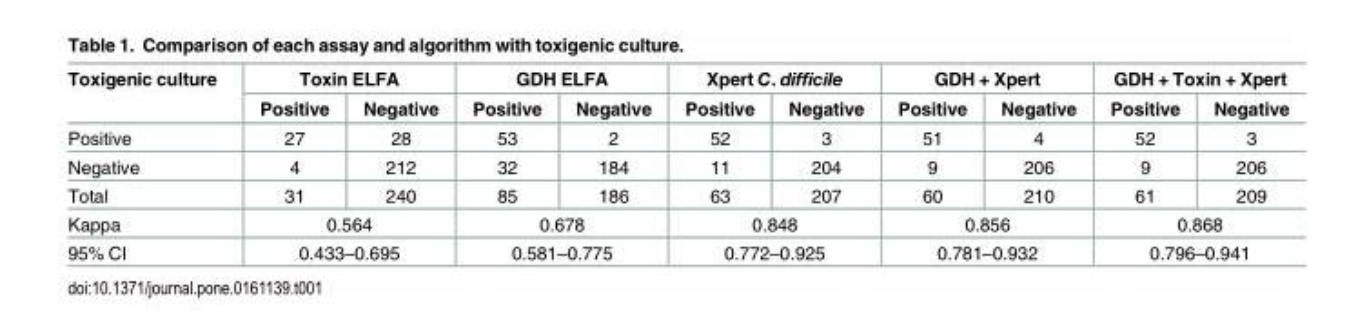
<table><thead><tr><td rowspan="2">Toxigenic culture</td><td colspan="2">Toxin ELFA</td><td colspan="2">GDH ELFA</td><td colspan="2">Xpert C. difficile</td><td colspan="2">GDH + Xpert</td><td colspan="2">GDH + Toxin + Xpert</td></tr><tr><td>Positive</td><td>Negative</td><td>Positive</td><td>Negative</td><td>Positive</td><td>Negative</td><td>Positive</td><td>Negative</td><td>Positive</td><td>Negative</td></tr></thead><tbody><tr><td>Positive</td><td>27</td><td>28</td><td>53</td><td>2</td><td>52</td><td>3</td><td>51</td><td>4</td><td>52</td><td>3</td></tr><tr><td>Negative</td><td>4</td><td>212</td><td>32</td><td>184</td><td>11</td><td>204</td><td>9</td><td>206</td><td>9</td><td>206</td></tr><tr><td>Total</td><td>31</td><td>240</td><td>85</td><td>186</td><td>63</td><td>207</td><td>60</td><td>210</td><td>61</td><td>209</td></tr><tr><td>Kappa</td><td colspan="2">0.564</td><td colspan="2">0.678</td><td colspan="2">0.848</td><td colspan="2">0.856</td><td colspan="2">0.868</td></tr><tr><td>95% CI</td><td colspan="2">0.433–0.695</td><td colspan="2">0.581–0.775</td><td colspan="2">0.772–0.925</td><td colspan="2">0.781–0.932</td><td colspan="2">0.796–0.941</td></tr></tbody></table>